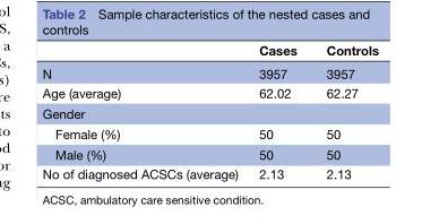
<table><thead><tr><td></td><td>Cases</td><td>Controls</td></tr></thead><tbody><tr><td>N</td><td>3957</td><td>3957</td></tr><tr><td>Age (average)</td><td>62.02</td><td>62.27</td></tr><tr><td colspan="3">Gender</td></tr><tr><td>Female (%)</td><td>50</td><td>50</td></tr><tr><td>Male (%)</td><td>50</td><td>50</td></tr><tr><td>No of diagnosed ACSCs (average)</td><td>2.13</td><td>2.13</td></tr></tbody></table>